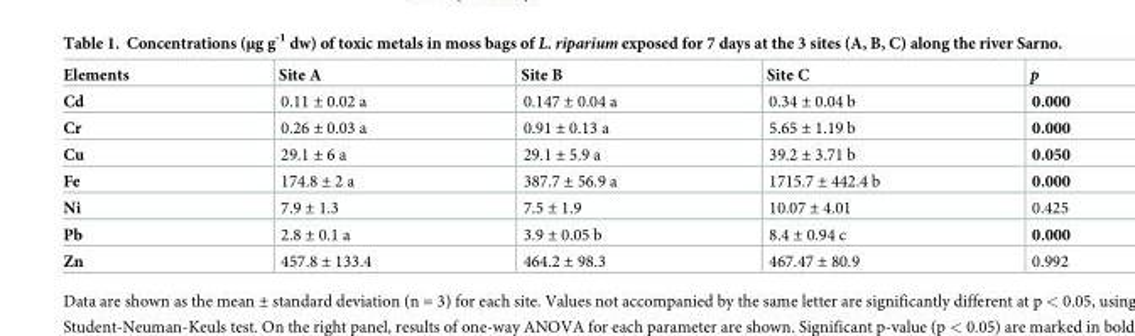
<table><thead><tr><td>Elements</td><td>Site A</td><td>Site B</td><td>Site C</td><td>p</td></tr></thead><tbody><tr><td>Cd</td><td>0.11 ± 0.02 a</td><td>0.147 ± 0.04 a</td><td>0.34 ± 0.04 b</td><td>0.000</td></tr><tr><td>Cr</td><td>0.26 ± 0.03 a</td><td>0.91 ± 0.13 a</td><td>5.65 ± 1.19 b</td><td>0.000</td></tr><tr><td>Cu</td><td>29.1 ± 6 a</td><td>29.1 ± 5.9 a</td><td>39.2 ± 3.71 b</td><td>0.050</td></tr><tr><td>Fe</td><td>174.8 ± 2 a</td><td>387.7 ± 56.9 a</td><td>1715.7 ± 442.4 b</td><td>0.000</td></tr><tr><td>Ni</td><td>7.9 ± 1.3</td><td>7.5 ± 1.9</td><td>10.07 ± 4.01</td><td>0.425</td></tr><tr><td>Pb</td><td>2.8 ± 0.1 a</td><td>3.9 ± 0.05 b</td><td>8.4 ± 0.94 c</td><td>0.000</td></tr><tr><td>Zn</td><td>457.8 ± 133.4</td><td>464.2 ± 98.3</td><td>467.47 ± 80.9</td><td>0.992</td></tr></tbody></table>